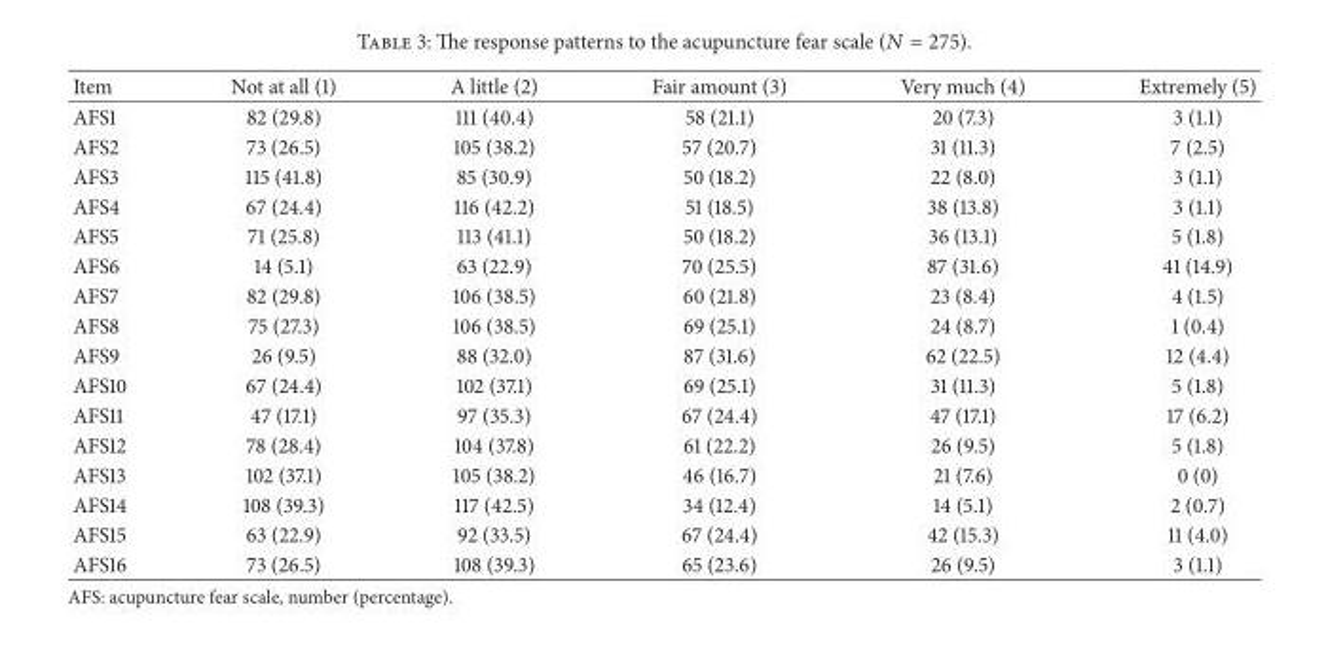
<table><thead><tr><td>Item</td><td>Not at all (1)</td><td>A little (2)</td><td>Fair amount (3)</td><td>Very much (4)</td><td>Extremely (5)</td></tr></thead><tbody><tr><td>AFS1</td><td>82 (29.8)</td><td>111 (40.4)</td><td>58 (21.1)</td><td>20 (7.3)</td><td>3 (1.1)</td></tr><tr><td>AFS2</td><td>73 (26.5)</td><td>105 (38.2)</td><td>57 (20.7)</td><td>31 (11.3)</td><td>7 (2.5)</td></tr><tr><td>AFS3</td><td>115 (41.8)</td><td>85 (30.9)</td><td>50 (18.2)</td><td>22 (8.0)</td><td>3 (1.1)</td></tr><tr><td>AFS4</td><td>67 (24.4)</td><td>116 (42.2)</td><td>51 (18.5)</td><td>38 (13.8)</td><td>3 (1.1)</td></tr><tr><td>AFS5</td><td>71 (25.8)</td><td>113 (41.1)</td><td>50 (18.2)</td><td>36 (13.1)</td><td>5 (1.8)</td></tr><tr><td>AFS6</td><td>14 (5.1)</td><td>63 (22.9)</td><td>70 (25.5)</td><td>87 (31.6)</td><td>41 (14.9)</td></tr><tr><td>AFS7</td><td>82 (29.8)</td><td>106 (38.5)</td><td>60 (21.8)</td><td>23 (8.4)</td><td>4 (1.5)</td></tr><tr><td>AFS8</td><td>75 (27.3)</td><td>106 (38.5)</td><td>69 (25.1)</td><td>24 (8.7)</td><td>1 (0.4)</td></tr><tr><td>AFS9</td><td>26 (9.5)</td><td>88 (32.0)</td><td>87 (31.6)</td><td>62 (22.5)</td><td>12 (4.4)</td></tr><tr><td>AFS10</td><td>67 (24.4)</td><td>102 (37.1)</td><td>69 (25.1)</td><td>31 (11.3)</td><td>5 (1.8)</td></tr><tr><td>AFS11</td><td>47 (17.1)</td><td>97 (35.3)</td><td>67 (24.4)</td><td>47 (17.1)</td><td>17 (6.2)</td></tr><tr><td>AFS12</td><td>78 (28.4)</td><td>104 (37.8)</td><td>61 (22.2)</td><td>26 (9.5)</td><td>5 (1.8)</td></tr><tr><td>AFS13</td><td>102 (37.1)</td><td>105 (38.2)</td><td>46 (16.7)</td><td>21 (7.6)</td><td>0 (0)</td></tr><tr><td>AFS14</td><td>108 (39.3)</td><td>117 (42.5)</td><td>34 (12.4)</td><td>14 (5.1)</td><td>2 (0.7)</td></tr><tr><td>AFS15</td><td>63 (22.9)</td><td>92 (33.5)</td><td>67 (24.4)</td><td>42 (15.3)</td><td>11 (4.0)</td></tr><tr><td>AFS16</td><td>73 (26.5)</td><td>108 (39.3)</td><td>65 (23.6)</td><td>26 (9.5)</td><td>3 (1.1)</td></tr></tbody></table>